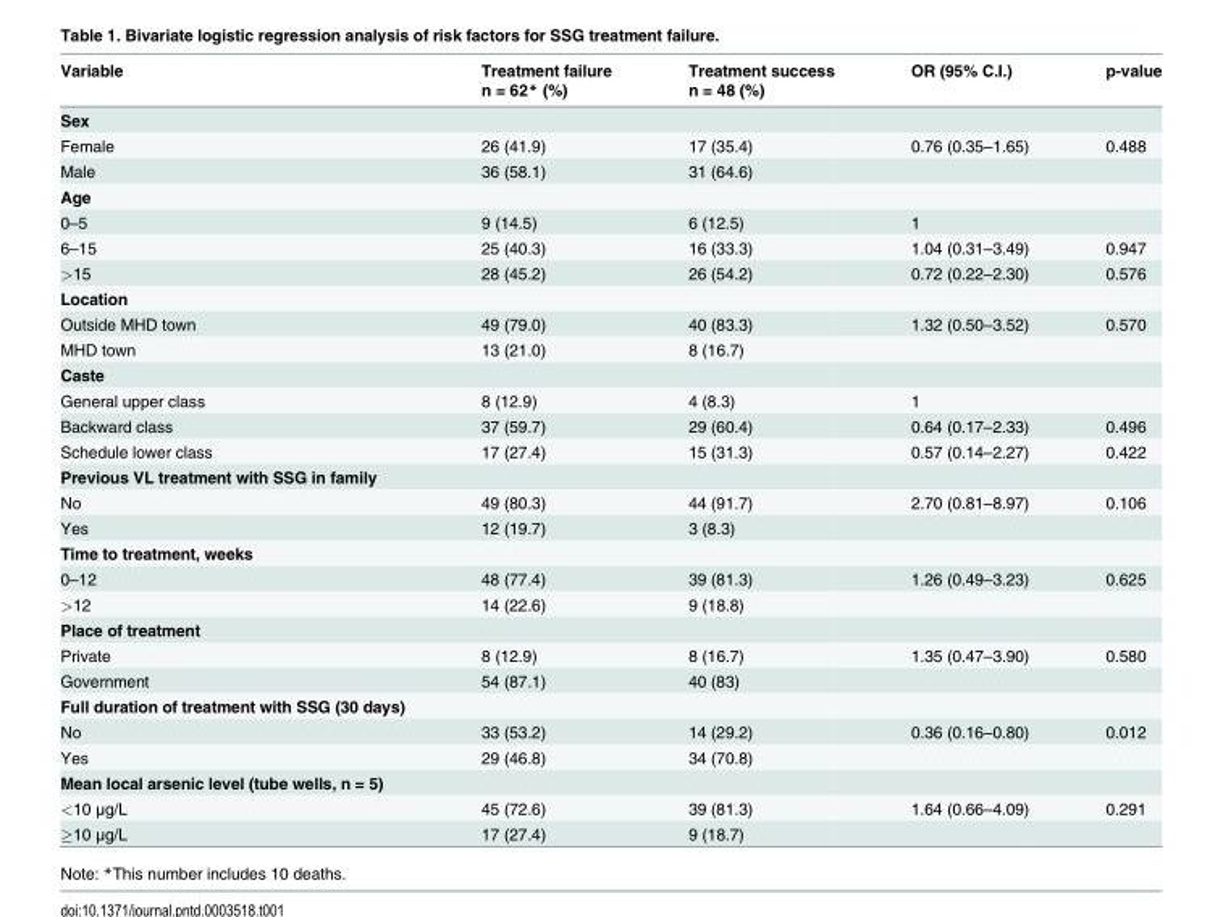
<table><thead><tr><td rowspan="2">Variable</td><td rowspan="2">Treatment failure n = 62* (%)</td><td rowspan="2">Treatment success n = 48 (%)</td><td rowspan="2">OR (95% C.I.)</td><td rowspan="2">p-value</td></tr><tr></tr></thead><tbody><tr><td colspan="5">Sex</td></tr><tr><td>Female</td><td>26 (41.9)</td><td>17 (35.4)</td><td>0.76 (0.35–1.65)</td><td>0.488</td></tr><tr><td>Male</td><td>36 (58.1)</td><td>31 (64.6)</td><td></td><td></td></tr><tr><td colspan="5">Age</td></tr><tr><td>0–5</td><td>9 (14.5)</td><td>6 (12.5)</td><td>1</td><td></td></tr><tr><td>6–15</td><td>25 (40.3)</td><td>16 (33.3)</td><td>1.04 (0.31–3.49)</td><td>0.947</td></tr><tr><td>&gt;15</td><td>28 (45.2)</td><td>26 (54.2)</td><td>0.72 (0.22–2.30)</td><td>0.576</td></tr><tr><td colspan="5">Location</td></tr><tr><td>Outside MHD town</td><td>49 (79.0)</td><td>40 (83.3)</td><td>1.32 (0.50–3.52)</td><td>0.570</td></tr><tr><td>MHD town</td><td>13 (21.0)</td><td>8 (16.7)</td><td></td><td></td></tr><tr><td colspan="5">Caste</td></tr><tr><td>General upper class</td><td>8 (12.9)</td><td>4 (8.3)</td><td>1</td><td></td></tr><tr><td>Backward class</td><td>37 (59.7)</td><td>29 (60.4)</td><td>0.64 (0.17–2.33)</td><td>0.496</td></tr><tr><td>Schedule lower class</td><td>17 (27.4)</td><td>15 (31.3)</td><td>0.57 (0.14–2.27)</td><td>0.422</td></tr><tr><td colspan="5">Previous VL treatment with SSG in family</td></tr><tr><td>No</td><td>49 (80.3)</td><td>44 (91.7)</td><td>2.70 (0.81–8.97)</td><td>0.106</td></tr><tr><td>Yes</td><td>12 (19.7)</td><td>3 (8.3)</td><td></td><td></td></tr><tr><td colspan="5">Time to treatment, weeks</td></tr><tr><td>0–12</td><td>48 (77.4)</td><td>39 (81.3)</td><td>1.26 (0.49–3.23)</td><td>0.625</td></tr><tr><td>&gt;12</td><td>14 (22.6)</td><td>9 (18.8)</td><td></td><td></td></tr><tr><td colspan="5">Place of treatment</td></tr><tr><td>Private</td><td>8 (12.9)</td><td>8 (16.7)</td><td>1.35 (0.47–3.90)</td><td>0.580</td></tr><tr><td>Government</td><td>54 (87.1)</td><td>40 (83)</td><td></td><td></td></tr><tr><td colspan="5">Full duration of treatment with SSG (30 days)</td></tr><tr><td>No</td><td>33 (53.2)</td><td>14 (29.2)</td><td>0.36 (0.16–0.80)</td><td>0.012</td></tr><tr><td>Yes</td><td>29 (46.8)</td><td>34 (70.8)</td><td></td><td></td></tr><tr><td colspan="5">Mean local arsenic level (tube wells, n = 5)</td></tr><tr><td>&lt;10 μg/L</td><td>45 (72.6)</td><td>39 (81.3)</td><td>1.64 (0.66–4.09)</td><td>0.291</td></tr><tr><td>≥10 μg/L</td><td>17 (27.4)</td><td>9 (18.7)</td><td></td><td></td></tr></tbody></table>